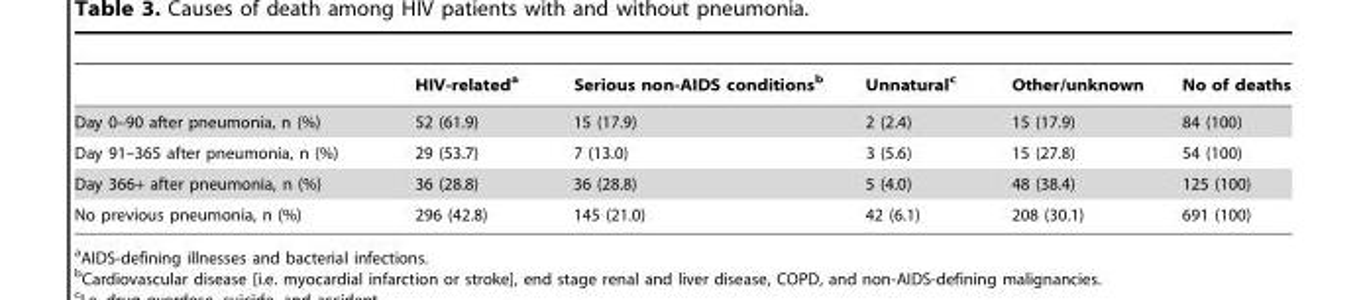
<table><thead><tr><td></td><td>HIV-related<sup>a</sup></td><td>Serious non-AIDS conditions<sup>b</sup></td><td>Unnatural<sup>c</sup></td><td>Other/unknown</td><td>No of deaths</td></tr></thead><tbody><tr><td>Day 0–90 after pneumonia, n (%)</td><td>52 (61.9)</td><td>15 (17.9)</td><td>2 (2.4)</td><td>15 (17.9)</td><td>84 (100)</td></tr><tr><td>Day 91–365 after pneumonia, n (%)</td><td>29 (53.7)</td><td>7 (13.0)</td><td>3 (5.6)</td><td>15 (27.8)</td><td>54 (100)</td></tr><tr><td>Day 366+ after pneumonia, n (%)</td><td>36 (28.8)</td><td>36 (28.8)</td><td>5 (4.0)</td><td>48 (38.4)</td><td>125 (100)</td></tr><tr><td>No previous pneumonia, n (%)</td><td>296 (42.8)</td><td>145 (21.0)</td><td>42 (6.1)</td><td>208 (30.1)</td><td>691 (100)</td></tr></tbody></table>